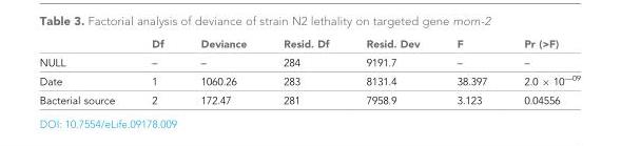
<table><thead><tr><td></td><td>Df</td><td>Deviance</td><td>Resid. Df</td><td>Resid. Dev</td><td>F</td><td>Pr (&gt;F)</td></tr></thead><tbody><tr><td>NULL</td><td>–</td><td>–</td><td>284</td><td>9191.7</td><td>–</td><td>–</td></tr><tr><td>Date</td><td>1</td><td>1060.26</td><td>283</td><td>8131.4</td><td>38.397</td><td>2.0 × 10<sup>—09</sup></td></tr><tr><td>Bacterial source</td><td>2</td><td>172.47</td><td>281</td><td>7958.9</td><td>3.123</td><td>0.04556</td></tr></tbody></table>